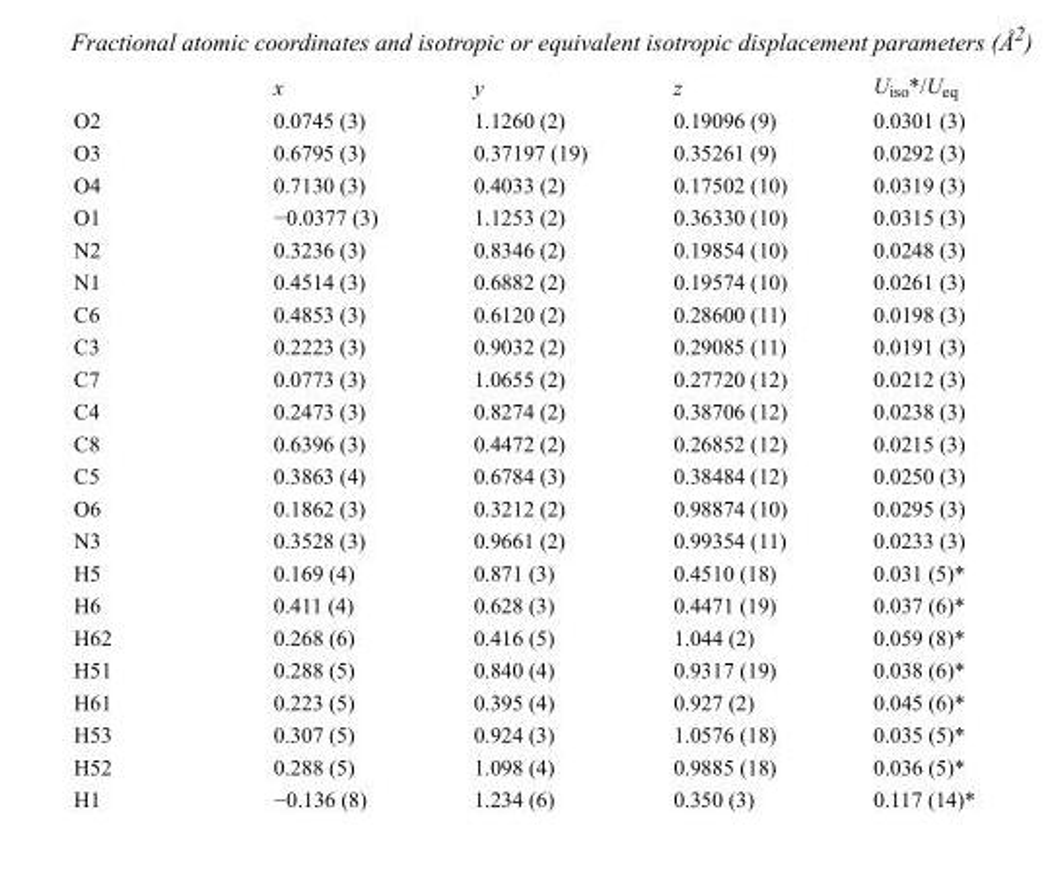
<table><thead><tr><td></td><td>x</td><td>y</td><td>z</td><td>U<sub>iso</sub>*/U<sub>eq</sub></td></tr></thead><tbody><tr><td>O2</td><td>0.0745 (3)</td><td>1.1260 (2)</td><td>0.19096 (9)</td><td>0.0301 (3)</td></tr><tr><td>O3</td><td>0.6795 (3)</td><td>0.37197 (19)</td><td>0.35261 (9)</td><td>0.0292 (3)</td></tr><tr><td>O4</td><td>0.7130 (3)</td><td>0.4033 (2)</td><td>0.17502 (10)</td><td>0.0319 (3)</td></tr><tr><td>O1</td><td>−0.0377 (3)</td><td>1.1253 (2)</td><td>0.36330 (10)</td><td>0.0315 (3)</td></tr><tr><td>N2</td><td>0.3236 (3)</td><td>0.8346 (2)</td><td>0.19854 (10)</td><td>0.0248 (3)</td></tr><tr><td>N1</td><td>0.4514 (3)</td><td>0.6882 (2)</td><td>0.19574 (10)</td><td>0.0261 (3)</td></tr><tr><td>C6</td><td>0.4853 (3)</td><td>0.6120 (2)</td><td>0.28600 (11)</td><td>0.0198 (3)</td></tr><tr><td>C3</td><td>0.2223 (3)</td><td>0.9032 (2)</td><td>0.29085 (11)</td><td>0.0191 (3)</td></tr><tr><td>C7</td><td>0.0773 (3)</td><td>1.0655 (2)</td><td>0.27720 (12)</td><td>0.0212 (3)</td></tr><tr><td>C4</td><td>0.2473 (3)</td><td>0.8274 (2)</td><td>0.38706 (12)</td><td>0.0238 (3)</td></tr><tr><td>C8</td><td>0.6396 (3)</td><td>0.4472 (2)</td><td>0.26852 (12)</td><td>0.0215 (3)</td></tr><tr><td>C5</td><td>0.3863 (4)</td><td>0.6784 (3)</td><td>0.38484 (12)</td><td>0.0250 (3)</td></tr><tr><td>O6</td><td>0.1862 (3)</td><td>0.3212 (2)</td><td>0.98874 (10)</td><td>0.0295 (3)</td></tr><tr><td>N3</td><td>0.3528 (3)</td><td>0.9661 (2)</td><td>0.99354 (11)</td><td>0.0233 (3)</td></tr><tr><td>H5</td><td>0.169 (4)</td><td>0.871 (3)</td><td>0.4510 (18)</td><td>0.031 (5)*</td></tr><tr><td>H6</td><td>0.411 (4)</td><td>0.628 (3)</td><td>0.4471 (19)</td><td>0.037 (6)*</td></tr><tr><td>H62</td><td>0.268 (6)</td><td>0.416 (5)</td><td>1.044 (2)</td><td>0.059 (8)*</td></tr><tr><td>H51</td><td>0.288 (5)</td><td>0.840 (4)</td><td>0.9317 (19)</td><td>0.038 (6)*</td></tr><tr><td>H61</td><td>0.223 (5)</td><td>0.395 (4)</td><td>0.927 (2)</td><td>0.045 (6)*</td></tr><tr><td>H53</td><td>0.307 (5)</td><td>0.924 (3)</td><td>1.0576 (18)</td><td>0.035 (5)*</td></tr><tr><td>H52</td><td>0.288 (5)</td><td>1.098 (4)</td><td>0.9885 (18)</td><td>0.036 (5)*</td></tr><tr><td>H1</td><td>−0.136 (8)</td><td>1.234 (6)</td><td>0.350 (3)</td><td>0.117 (14)*</td></tr></tbody></table>